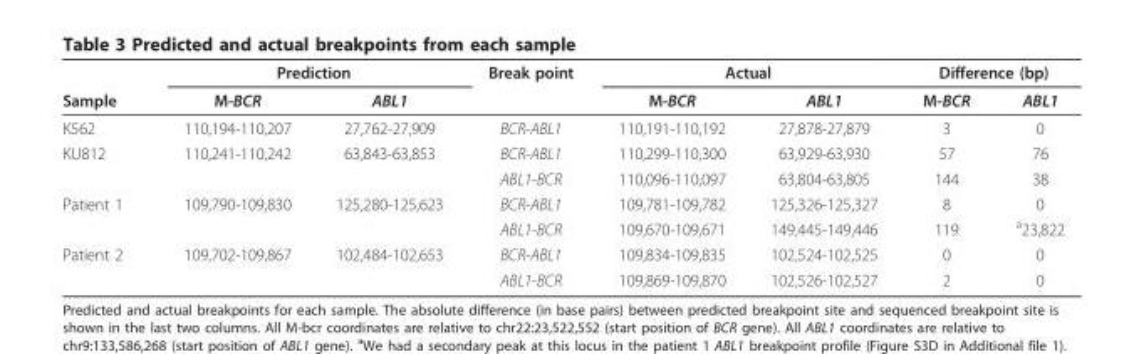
<table><thead><tr><td rowspan="2">Sample</td><td colspan="2">Prediction</td><td rowspan="2">Break point</td><td colspan="2">Actual</td><td colspan="2">Difference (bp)</td></tr><tr><td>M-BCR</td><td>ABL1</td><td>M-BCR</td><td>ABL1</td><td>M-BCR</td><td>ABL1</td></tr></thead><tbody><tr><td>K562</td><td>110,194-110,207</td><td>27,762-27,909</td><td>BCR-ABL1</td><td>110,191-110,192</td><td>27,878-27,879</td><td>3</td><td>0</td></tr><tr><td rowspan="2">KU812</td><td>110,241-110,242</td><td>63,843-63,853</td><td>BCR-ABL1</td><td>110,299-110,300</td><td>63,929-63,930</td><td>57</td><td>76</td></tr><tr><td></td><td></td><td>ABL1-BCR</td><td>110,096-110,097</td><td>63,804-63,805</td><td>144</td><td>38</td></tr><tr><td rowspan="2">Patient 1</td><td>109,790-109,830</td><td>125,280-125,623</td><td>BCR-ABL1</td><td>109,781-109,782</td><td>125,326-125,327</td><td>8</td><td>0</td></tr><tr><td></td><td></td><td>ABL1-BCR</td><td>109,670-109,671</td><td>149,445-149,446</td><td>119</td><td><sup>a</sup>23,822</td></tr><tr><td rowspan="2">Patient 2</td><td>109,702-109,867</td><td>102,484-102,653</td><td>BCR-ABL1</td><td>109,834-109,835</td><td>102,524-102,525</td><td>0</td><td>0</td></tr><tr><td></td><td></td><td>ABL1-BCR</td><td>109,869-109,870</td><td>102,526-102,527</td><td>2</td><td>0</td></tr></tbody></table>